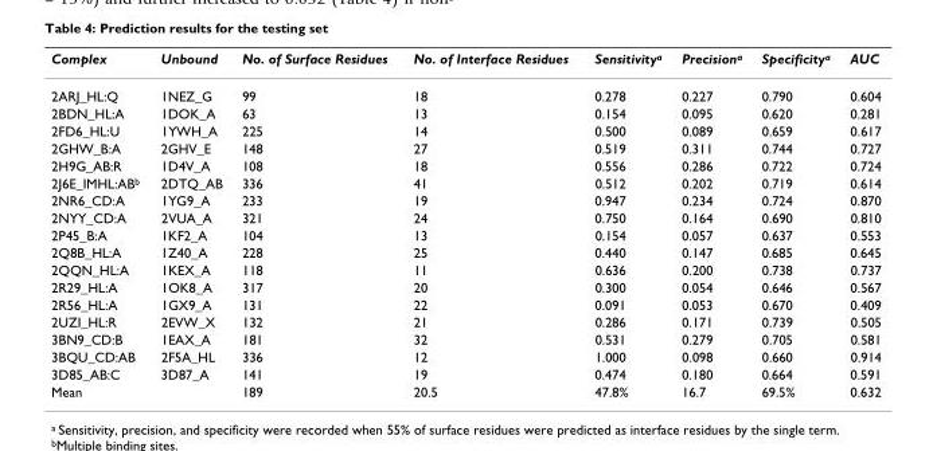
<table><thead><tr><td>Complex</td><td>Unbound</td><td>No. of Surface Residues</td><td>No. of Interface Residues</td><td>Sensitivity<sup>a</sup></td><td>Precision<sup>a</sup></td><td>Specificity<sup>a</sup></td><td>AUC</td></tr></thead><tbody><tr><td>2ARJ_HL:Q</td><td>1NEZ_G</td><td>99</td><td>18</td><td>0.278</td><td>0.227</td><td>0.790</td><td>0.604</td></tr><tr><td>2BDN_HL:A</td><td>1DOK_A</td><td>63</td><td>13</td><td>0.154</td><td>0.095</td><td>0.620</td><td>0.281</td></tr><tr><td>2FD6_HL:U</td><td>1YWH_A</td><td>225</td><td>14</td><td>0.500</td><td>0.089</td><td>0.659</td><td>0.617</td></tr><tr><td>2GHW_B:A</td><td>2GHV_E</td><td>148</td><td>27</td><td>0.519</td><td>0.311</td><td>0.744</td><td>0.727</td></tr><tr><td>2H9G_AB:R</td><td>1D4V_A</td><td>108</td><td>18</td><td>0.556</td><td>0.286</td><td>0.722</td><td>0.724</td></tr><tr><td>2J6E_IMHL:AB<sup>b</sup></td><td>2DTQ_AB</td><td>336</td><td>41</td><td>0.512</td><td>0.202</td><td>0.719</td><td>0.614</td></tr><tr><td>2NR6_CD:A</td><td>1YG9_A</td><td>233</td><td>19</td><td>0.947</td><td>0.234</td><td>0.724</td><td>0.870</td></tr><tr><td>2NYY_CD:A</td><td>2VUA_A</td><td>321</td><td>24</td><td>0.750</td><td>0.164</td><td>0.690</td><td>0.810</td></tr><tr><td>2P45_B:A</td><td>1KF2_A</td><td>104</td><td>13</td><td>0.154</td><td>0.057</td><td>0.637</td><td>0.553</td></tr><tr><td>2Q8B_HL:A</td><td>1Z40_A</td><td>228</td><td>25</td><td>0.440</td><td>0.147</td><td>0.685</td><td>0.645</td></tr><tr><td>2QQN_HL:A</td><td>1KEX_A</td><td>118</td><td>11</td><td>0.636</td><td>0.200</td><td>0.738</td><td>0.737</td></tr><tr><td>2R29_HL:A</td><td>1OK8_A</td><td>317</td><td>20</td><td>0.300</td><td>0.054</td><td>0.646</td><td>0.567</td></tr><tr><td>2R56_HL:A</td><td>1GX9_A</td><td>131</td><td>22</td><td>0.091</td><td>0.053</td><td>0.670</td><td>0.409</td></tr><tr><td>2UZI_HL:R</td><td>2EVW_X</td><td>132</td><td>21</td><td>0.286</td><td>0.171</td><td>0.739</td><td>0.505</td></tr><tr><td>3BN9_CD:B</td><td>1EAX_A</td><td>181</td><td>32</td><td>0.531</td><td>0.279</td><td>0.705</td><td>0.581</td></tr><tr><td>3BQU_CD:AB</td><td>2F5A_HL</td><td>336</td><td>12</td><td>1.000</td><td>0.098</td><td>0.660</td><td>0.914</td></tr><tr><td>3D85_AB:C</td><td>3D87_A</td><td>141</td><td>19</td><td>0.474</td><td>0.180</td><td>0.664</td><td>0.591</td></tr><tr><td>Mean</td><td></td><td>189</td><td>20.5</td><td>47.8%</td><td>16.7</td><td>69.5%</td><td>0.632</td></tr></tbody></table>